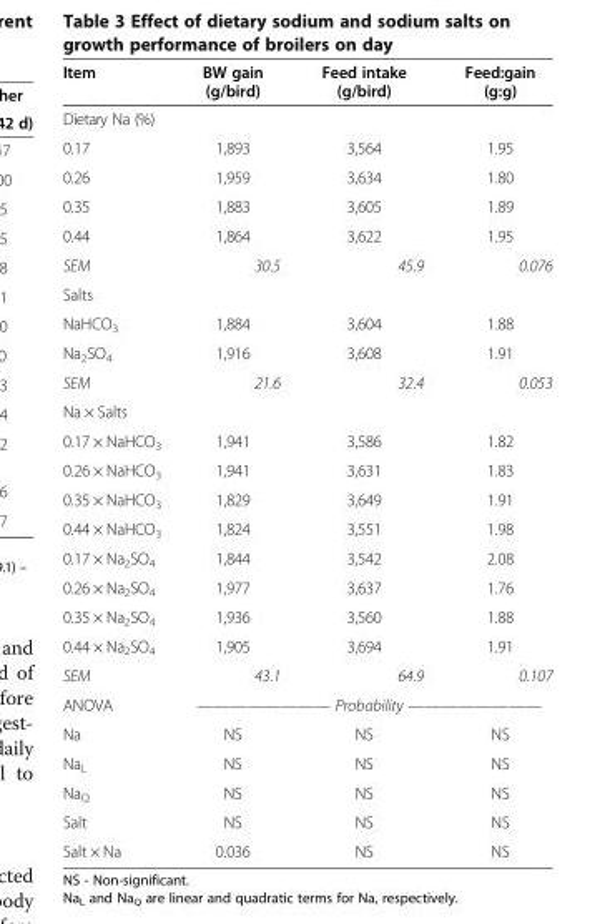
<table><thead><tr><td>Item</td><td>BW gain (g/bird)</td><td>Feed intake (g/bird)</td><td>Feed:gain (g:g)</td></tr></thead><tbody><tr><td colspan="4">Dietary Na (%)</td></tr><tr><td>0.17</td><td>1,893</td><td>3,564</td><td>1.95</td></tr><tr><td>0.26</td><td>1,959</td><td>3,634</td><td>1.80</td></tr><tr><td>0.35</td><td>1,883</td><td>3,605</td><td>1.89</td></tr><tr><td>0.44</td><td>1,864</td><td>3,622</td><td>1.95</td></tr><tr><td>SEM</td><td>30.5</td><td>45.9</td><td>0.076</td></tr><tr><td colspan="4">Salts</td></tr><tr><td>NaHCO<sub>3</sub></td><td>1,884</td><td>3,604</td><td>1.88</td></tr><tr><td>Na<sub>2</sub>SO<sub>4</sub></td><td>1,916</td><td>3,608</td><td>1.91</td></tr><tr><td>SEM</td><td>21.6</td><td>32.4</td><td>0.053</td></tr><tr><td colspan="4">Na × Salts</td></tr><tr><td>0.17 × NaHCO<sub>3</sub></td><td>1,941</td><td>3,586</td><td>1.82</td></tr><tr><td>0.26 × NaHCO<sub>3</sub></td><td>1,941</td><td>3,631</td><td>1.83</td></tr><tr><td>0.35 × NaHCO<sub>3</sub></td><td>1,829</td><td>3,649</td><td>1.91</td></tr><tr><td>0.44 × NaHCO<sub>3</sub></td><td>1,824</td><td>3,551</td><td>1.98</td></tr><tr><td>0.17 × Na<sub>2</sub>SO<sub>4</sub></td><td>1,844</td><td>3,542</td><td>2.08</td></tr><tr><td>0.26 × Na<sub>2</sub>SO<sub>4</sub></td><td>1,977</td><td>3,637</td><td>1.76</td></tr><tr><td>0.35 × Na<sub>2</sub>SO<sub>4</sub></td><td>1,936</td><td>3,560</td><td>1.88</td></tr><tr><td>0.44 × Na<sub>2</sub>SO<sub>4</sub></td><td>1,905</td><td>3,694</td><td>1.91</td></tr><tr><td>SEM</td><td>43.1</td><td>64.9</td><td>0.107</td></tr><tr><td>ANOVA</td><td colspan="3">———————— Probability ————————</td></tr><tr><td>Na</td><td>NS</td><td>NS</td><td>NS</td></tr><tr><td>Na<sub>L</sub></td><td>NS</td><td>NS</td><td>NS</td></tr><tr><td>Na<sub>Q</sub></td><td>NS</td><td>NS</td><td>NS</td></tr><tr><td>Salt</td><td>NS</td><td>NS</td><td>NS</td></tr><tr><td>Salt × Na</td><td>0.036</td><td>NS</td><td>NS</td></tr></tbody></table>